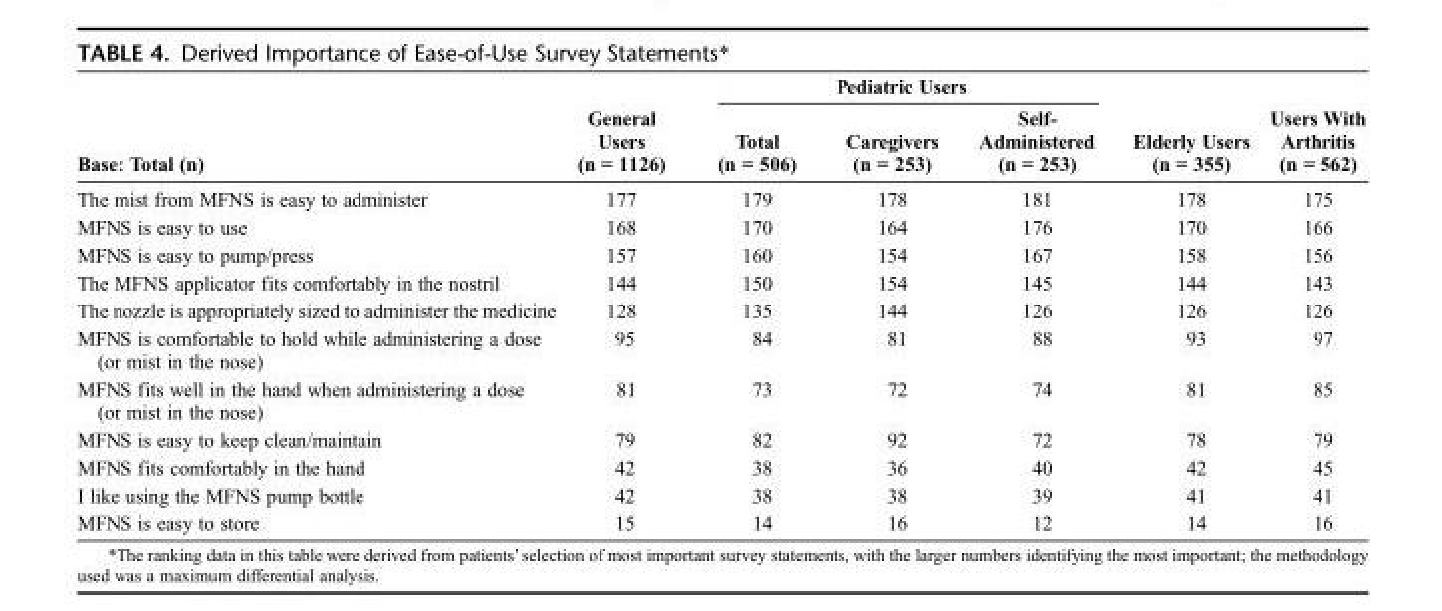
<table><thead><tr><td rowspan="2">Base: Total (n)</td><td rowspan="2">General Users (n = 1126)</td><td colspan="3">Pediatric Users</td><td rowspan="2">Elderly Users (n = 355)</td><td rowspan="2">Users With Arthritis (n = 562)</td></tr><tr><td>Total (n = 506)</td><td>Caregivers (n = 253)</td><td>Self- Administered (n = 253)</td></tr></thead><tbody><tr><td>The mist from MFNS is easy to administer</td><td>177</td><td>179</td><td>178</td><td>181</td><td>178</td><td>175</td></tr><tr><td>MFNS is easy to use</td><td>168</td><td>170</td><td>164</td><td>176</td><td>170</td><td>166</td></tr><tr><td>MFNS is easy to pump/press</td><td>157</td><td>160</td><td>154</td><td>167</td><td>158</td><td>156</td></tr><tr><td>The MFNS applicator fits comfortably in the nostril</td><td>144</td><td>150</td><td>154</td><td>145</td><td>144</td><td>143</td></tr><tr><td>The nozzle is appropriately sized to administer the medicine</td><td>128</td><td>135</td><td>144</td><td>126</td><td>126</td><td>126</td></tr><tr><td>MFNS is comfortable to hold while administering a dose (or mist in the nose)</td><td>95</td><td>84</td><td>81</td><td>88</td><td>93</td><td>97</td></tr><tr><td>MFNS fits well in the hand when administering a dose (or mist in the nose)</td><td>81</td><td>73</td><td>72</td><td>74</td><td>81</td><td>85</td></tr><tr><td>MFNS is easy to keep clean/maintain</td><td>79</td><td>82</td><td>92</td><td>72</td><td>78</td><td>79</td></tr><tr><td>MFNS fits comfortably in the hand</td><td>42</td><td>38</td><td>36</td><td>40</td><td>42</td><td>45</td></tr><tr><td>I like using the MFNS pump bottle</td><td>42</td><td>38</td><td>38</td><td>39</td><td>41</td><td>41</td></tr><tr><td>MFNS is easy to store</td><td>15</td><td>14</td><td>16</td><td>12</td><td>14</td><td>16</td></tr></tbody></table>